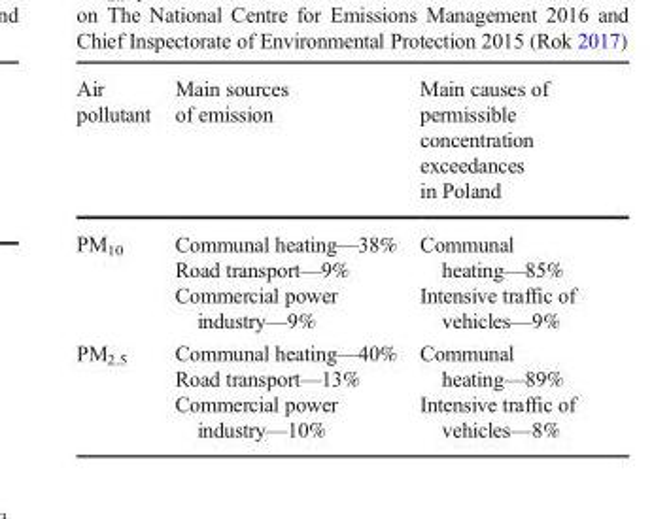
<table><thead><tr><td>Air pollutant</td><td>Main sources of emission</td><td>Main causes of permissible concentration exceedances in Poland</td></tr></thead><tbody><tr><td>PM<sub>10</sub></td><td>Communal heating—38% Road transport—9% Commercial power industry—9%</td><td>Communal heating—85% Intensive traffic of vehicles—9%</td></tr><tr><td>PM<sub>2.5</sub></td><td>Communal heating—40% Road transport—13% Commercial power industry—10%</td><td>Communal heating—89% Intensive traffic of vehicles—8%</td></tr></tbody></table>